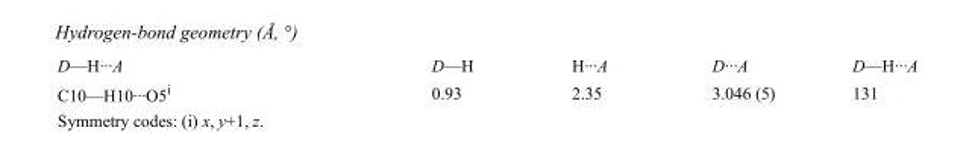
<table><tbody><tr><td>D—H···A</td><td>D—H</td><td>H···A</td><td>D···A</td><td>D—H···A</td></tr><tr><td>C10—H10···O5<sup>i</sup></td><td>0.93</td><td>2.35</td><td>3.046 (5)</td><td>131</td></tr></tbody></table>